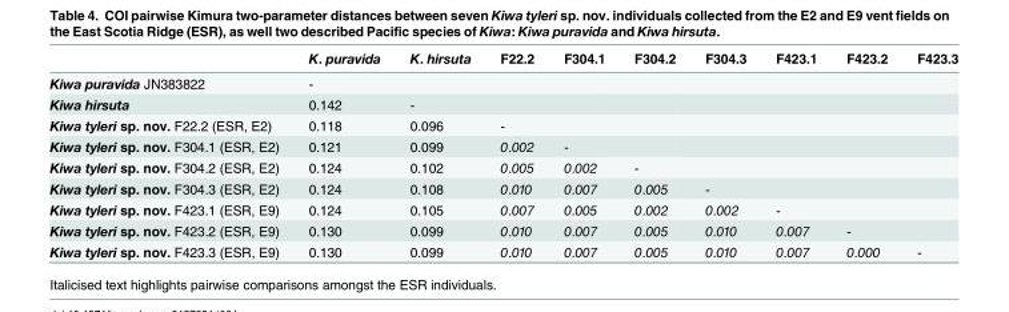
<table><thead><tr><td></td><td>K. puravida</td><td>K. hirsuta</td><td>F22.2</td><td>F304.1</td><td>F304.2</td><td>F304.3</td><td>F423.1</td><td>F423.2</td><td>F423.3</td></tr></thead><tbody><tr><td>Kiwa puravida JN383822</td><td>-</td><td></td><td></td><td></td><td></td><td></td><td></td><td></td><td></td></tr><tr><td>Kiwa hirsuta</td><td>0.142</td><td>-</td><td></td><td></td><td></td><td></td><td></td><td></td><td></td></tr><tr><td>Kiwa tyleri sp. nov. F22.2 (ESR, E2)</td><td>0.118</td><td>0.096</td><td>-</td><td></td><td></td><td></td><td></td><td></td><td></td></tr><tr><td>Kiwa tyleri sp. nov. F304.1 (ESR, E2)</td><td>0.121</td><td>0.099</td><td>0.002</td><td>-</td><td></td><td></td><td></td><td></td><td></td></tr><tr><td>Kiwa tyleri sp. nov. F304.2 (ESR, E2)</td><td>0.124</td><td>0.102</td><td>0.005</td><td>0.002</td><td>-</td><td></td><td></td><td></td><td></td></tr><tr><td>Kiwa tyleri sp. nov. F304.3 (ESR, E2)</td><td>0.124</td><td>0.108</td><td>0.010</td><td>0.007</td><td>0.005</td><td>-</td><td></td><td></td><td></td></tr><tr><td>Kiwa tyleri sp. nov. F423.1 (ESR, E9)</td><td>0.124</td><td>0.105</td><td>0.007</td><td>0.005</td><td>0.002</td><td>0.002</td><td>-</td><td></td><td></td></tr><tr><td>Kiwa tyleri sp. nov. F423.2 (ESR, E9)</td><td>0.130</td><td>0.099</td><td>0.010</td><td>0.007</td><td>0.005</td><td>0.010</td><td>0.007</td><td>-</td><td></td></tr><tr><td>Kiwa tyleri sp. nov. F423.3 (ESR, E9)</td><td>0.130</td><td>0.099</td><td>0.010</td><td>0.007</td><td>0.005</td><td>0.010</td><td>0.007</td><td>0.000</td><td>-</td></tr></tbody></table>